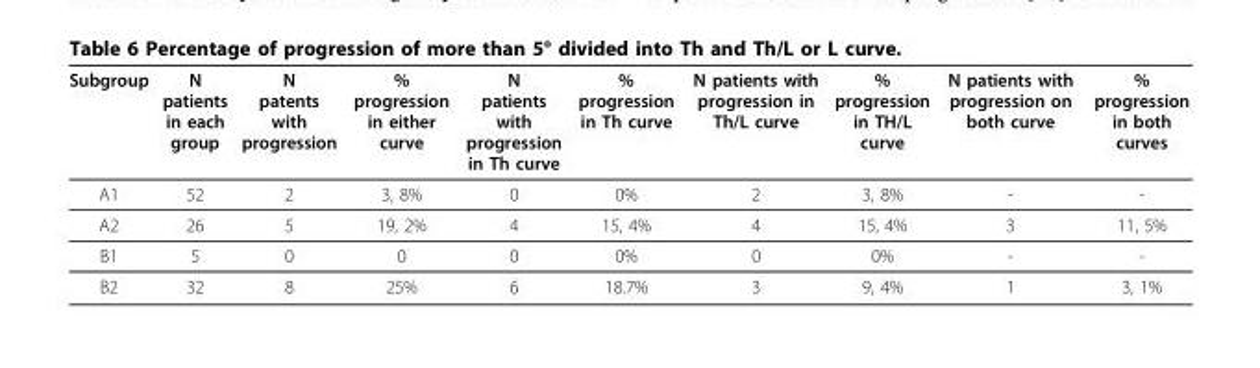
<table><thead><tr><td>Subgroup</td><td>N patients in each group</td><td>N patents with progression</td><td>% progression in either curve</td><td>N patients with progression in Th curve</td><td>% progression in Th curve</td><td>N patients with progression in Th/L curve</td><td>% progression in TH/L curve</td><td>N patients with progression on both curve</td><td>% progression in both curves</td></tr></thead><tbody><tr><td>A1</td><td>52</td><td>2</td><td>3, 8%</td><td>0</td><td>0%</td><td>2</td><td>3, 8%</td><td>-</td><td>-</td></tr><tr><td>A2</td><td>26</td><td>5</td><td>19, 2%</td><td>4</td><td>15, 4%</td><td>4</td><td>15, 4%</td><td>3</td><td>11, 5%</td></tr><tr><td>B1</td><td>5</td><td>0</td><td>0</td><td>0</td><td>0%</td><td>0</td><td>0%</td><td>-</td><td>-</td></tr><tr><td>B2</td><td>32</td><td>8</td><td>25%</td><td>6</td><td>18.7%</td><td>3</td><td>9, 4%</td><td>1</td><td>3, 1%</td></tr></tbody></table>